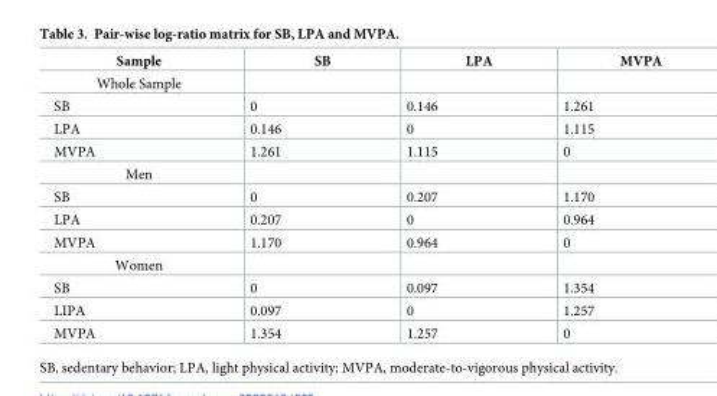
<table><thead><tr><td>Sample</td><td>SB</td><td>LPA</td><td>MVPA</td></tr></thead><tbody><tr><td colspan="4">Whole Sample</td></tr><tr><td>SB</td><td>0</td><td>0.146</td><td>1.261</td></tr><tr><td>LPA</td><td>0.146</td><td>0</td><td>1.115</td></tr><tr><td>MVPA</td><td>1.261</td><td>1.115</td><td>0</td></tr><tr><td colspan="4">Men</td></tr><tr><td>SB</td><td>0</td><td>0.207</td><td>1.170</td></tr><tr><td>LPA</td><td>0.207</td><td>0</td><td>0.964</td></tr><tr><td>MVPA</td><td>1.170</td><td>0.964</td><td>0</td></tr><tr><td colspan="4">Women</td></tr><tr><td>SB</td><td>0</td><td>0.097</td><td>1.354</td></tr><tr><td>LIPA</td><td>0.097</td><td>0</td><td>1.257</td></tr><tr><td>MVPA</td><td>1.354</td><td>1.257</td><td>0</td></tr></tbody></table>